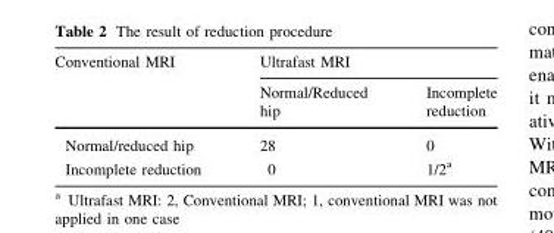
<table><thead><tr><td rowspan="2">Conventional MRI</td><td colspan="2">Ultrafast MRI</td></tr><tr><td>Normal/Reduced hip</td><td>Incomplete reduction</td></tr></thead><tbody><tr><td>Normal/reduced hip</td><td>28</td><td>0</td></tr><tr><td>Incomplete reduction</td><td>0</td><td>1/2<sup>a</sup></td></tr></tbody></table>